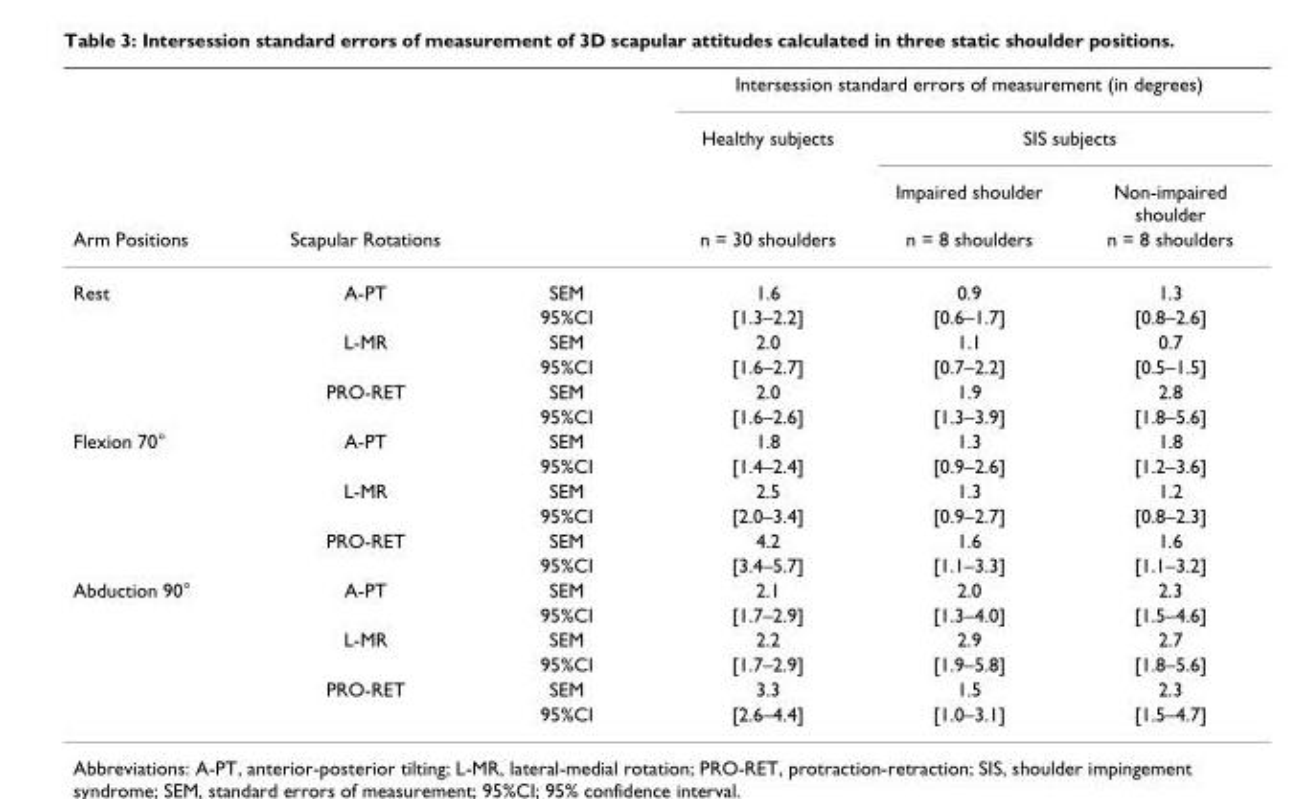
<table><thead><tr><td rowspan="4">Arm Positions</td><td rowspan="4">Scapular Rotations</td><td rowspan="4"></td><td colspan="3">Intersession standard errors of measurement (in degrees)</td></tr><tr><td rowspan="3">Healthy subjects n = 30 shoulders</td><td colspan="2">SIS subjects</td></tr><tr><td rowspan="2">Impaired shoulder n = 8 shoulders</td><td rowspan="2">Non-impaired shoulder n = 8 shoulders</td></tr><tr></tr></thead><tbody><tr><td rowspan="6">Rest</td><td>A-PT</td><td>SEM</td><td>1.6</td><td>0.9</td><td>1.3</td></tr><tr><td></td><td>95%CI</td><td>[1.3–2.2]</td><td>[0.6–1.7]</td><td>[0.8–2.6]</td></tr><tr><td>L-MR</td><td>SEM</td><td>2.0</td><td>1.1</td><td>0.7</td></tr><tr><td></td><td>95%CI</td><td>[1.6–2.7]</td><td>[0.7–2.2]</td><td>[0.5–1.5]</td></tr><tr><td>PRO-RET</td><td>SEM</td><td>2.0</td><td>1.9</td><td>2.8</td></tr><tr><td></td><td>95%CI</td><td>[1.6–2.6]</td><td>[1.3–3.9]</td><td>[1.8–5.6]</td></tr><tr><td rowspan="6">Flexion 70°</td><td>A-PT</td><td>SEM</td><td>1.8</td><td>1.3</td><td>1.8</td></tr><tr><td></td><td>95%CI</td><td>[1.4–2.4]</td><td>[0.9–2.6]</td><td>[1.2–3.6]</td></tr><tr><td>L-MR</td><td>SEM</td><td>2.5</td><td>1.3</td><td>1.2</td></tr><tr><td></td><td>95%CI</td><td>[2.0–3.4]</td><td>[0.9–2.7]</td><td>[0.8–2.3]</td></tr><tr><td>PRO-RET</td><td>SEM</td><td>4.2</td><td>1.6</td><td>1.6</td></tr><tr><td></td><td>95%CI</td><td>[3.4–5.7]</td><td>[1.1–3.3]</td><td>[1.1–3.2]</td></tr><tr><td rowspan="6">Abduction 90°</td><td>A-PT</td><td>SEM</td><td>2.1</td><td>2.0</td><td>2.3</td></tr><tr><td></td><td>95%CI</td><td>[1.7–2.9]</td><td>[1.3–4.0]</td><td>[1.5–4.6]</td></tr><tr><td>L-MR</td><td>SEM</td><td>2.2</td><td>2.9</td><td>2.7</td></tr><tr><td></td><td>95%CI</td><td>[1.7–2.9]</td><td>[1.9–5.8]</td><td>[1.8–5.6]</td></tr><tr><td>PRO-RET</td><td>SEM</td><td>3.3</td><td>1.5</td><td>2.3</td></tr><tr><td></td><td>95%CI</td><td>[2.6–4.4]</td><td>[1.0–3.1]</td><td>[1.5–4.7]</td></tr></tbody></table>